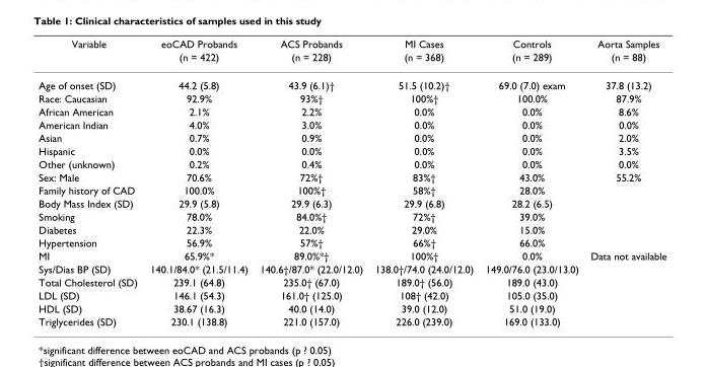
<table><thead><tr><td rowspan="2">Variable</td><td rowspan="2">eoCAD Probands (n = 422)</td><td rowspan="2">ACS Probands (n = 228)</td><td rowspan="2">MI Cases (n = 368)</td><td rowspan="2">Controls (n = 289)</td><td rowspan="2">Aorta Samples (n = 88)</td></tr><tr></tr></thead><tbody><tr><td>Age of onset (SD)</td><td>44.2 (5.8)</td><td>43.9 (6.1)†</td><td>51.5 (10.2)†</td><td>69.0 (7.0) exam</td><td>37.8 (13.2)</td></tr><tr><td>Race: Caucasian</td><td>92.9%</td><td>93%†</td><td>100%†</td><td>100.0%</td><td>87.9%</td></tr><tr><td>African American</td><td>2.1%</td><td>2.2%</td><td>0.0%</td><td>0.0%</td><td>8.6%</td></tr><tr><td>American Indian</td><td>4.0%</td><td>3.0%</td><td>0.0%</td><td>0.0%</td><td>0.0%</td></tr><tr><td>Asian</td><td>0.7%</td><td>0.9%</td><td>0.0%</td><td>0.0%</td><td>2.0%</td></tr><tr><td>Hispanic</td><td>0.0%</td><td>0.0%</td><td>0.0%</td><td>0.0%</td><td>3.5%</td></tr><tr><td>Other (unknown)</td><td>0.2%</td><td>0.4%</td><td>0.0%</td><td>0.0%</td><td>0.0%</td></tr><tr><td>Sex: Male</td><td>70.6%</td><td>72%†</td><td>83%†</td><td>43.0%</td><td>55.2%</td></tr><tr><td>Family history of CAD</td><td>100.0%</td><td>100%†</td><td>58%†</td><td>28.0%</td><td></td></tr><tr><td>Body Mass Index (SD)</td><td>29.9 (5.8)</td><td>29.9 (6.3)</td><td>29.9 (6.8)</td><td>28.2 (6.5)</td><td></td></tr><tr><td>Smoking</td><td>78.0%</td><td>84.0%†</td><td>72%†</td><td>39.0%</td><td></td></tr><tr><td>Diabetes</td><td>22.3%</td><td>22.0%</td><td>29.0%</td><td>15.0%</td><td></td></tr><tr><td>Hypertension</td><td>56.9%</td><td>57%†</td><td>66%†</td><td>66.0%</td><td></td></tr><tr><td>MI</td><td>65.9%*</td><td>89.0%*†</td><td>100%†</td><td>0.0%</td><td>Data not available</td></tr><tr><td>Sys/Dias BP (SD)</td><td>140.1/84.0* (21.5/11.4)</td><td>140.6†/87.0* (22.0/12.0)</td><td>138.0†/74.0 (24.0/12.0)</td><td>149.0/76.0 (23.0/13.0)</td><td></td></tr><tr><td>Total Cholesterol (SD)</td><td>239.1 (64.8)</td><td>235.0† (67.0)</td><td>189.0† (56.0)</td><td>189.0 (43.0)</td><td></td></tr><tr><td>LDL (SD)</td><td>146.1 (54.3)</td><td>161.0† (125.0)</td><td>108† (42.0)</td><td>105.0 (35.0)</td><td></td></tr><tr><td>HDL (SD)</td><td>38.67 (16.3)</td><td>40.0 (14.0)</td><td>39.0 (12.0)</td><td>51.0 (19.0)</td><td></td></tr><tr><td>Triglycerides (SD)</td><td>230.1 (138.8)</td><td>221.0 (157.0)</td><td>226.0 (239.0)</td><td>169.0 (133.0)</td><td></td></tr></tbody></table>